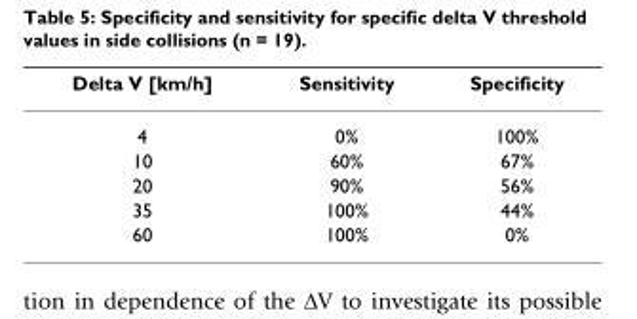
<table><thead><tr><td>Delta V [km/h]</td><td>Sensitivity</td><td>Specificity</td></tr></thead><tbody><tr><td>4</td><td>0%</td><td>100%</td></tr><tr><td>10</td><td>60%</td><td>67%</td></tr><tr><td>20</td><td>90%</td><td>56%</td></tr><tr><td>35</td><td>100%</td><td>44%</td></tr><tr><td>60</td><td>100%</td><td>0%</td></tr></tbody></table>